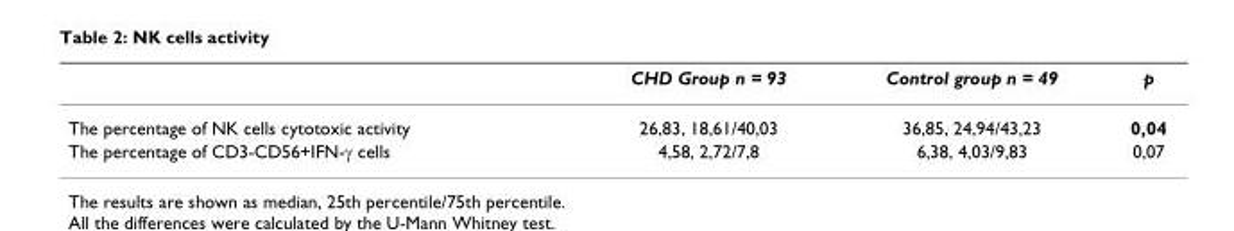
<table><thead><tr><td></td><td>CHD Group n = 93</td><td>Control group n = 49</td><td>p</td></tr></thead><tbody><tr><td>The percentage of NK cells cytotoxic activity</td><td>26,83, 18,61/40,03</td><td>36,85, 24,94/43,23</td><td>0,04</td></tr><tr><td>The percentage of CD3-CD56+IFN-γ cells</td><td>4,58, 2,72/7,8</td><td>6,38, 4,03/9,83</td><td>0,07</td></tr></tbody></table>